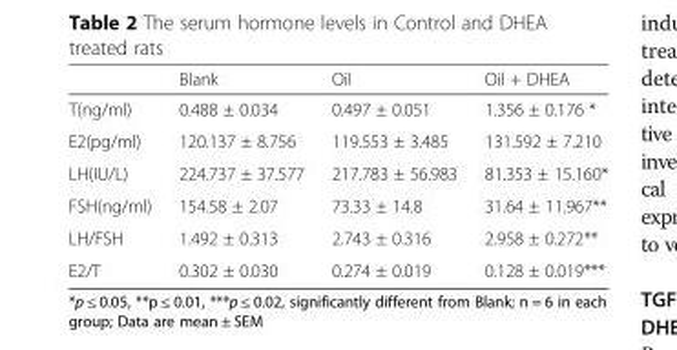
<table><thead><tr><td></td><td>Blank</td><td>Oil</td><td>Oil + DHEA</td></tr></thead><tbody><tr><td>T(ng/ml)</td><td>0.488 ± 0.034</td><td>0.497 ± 0.051</td><td>1.356 ± 0.176 *</td></tr><tr><td>E2(pg/ml)</td><td>120.137 ± 8.756</td><td>119.553 ± 3.485</td><td>131.592 ± 7.210</td></tr><tr><td>LH(IU/L)</td><td>224.737 ± 37.577</td><td>217.783 ± 56.983</td><td>81.353 ± 15.160*</td></tr><tr><td>FSH(ng/ml)</td><td>154.58 ± 2.07</td><td>73.33 ± 14.8</td><td>31.64 ± 11.967**</td></tr><tr><td>LH/FSH</td><td>1.492 ± 0.313</td><td>2.743 ± 0.316</td><td>2.958 ± 0.272**</td></tr><tr><td>E2/T</td><td>0.302 ± 0.030</td><td>0.274 ± 0.019</td><td>0.128 ± 0.019***</td></tr></tbody></table>